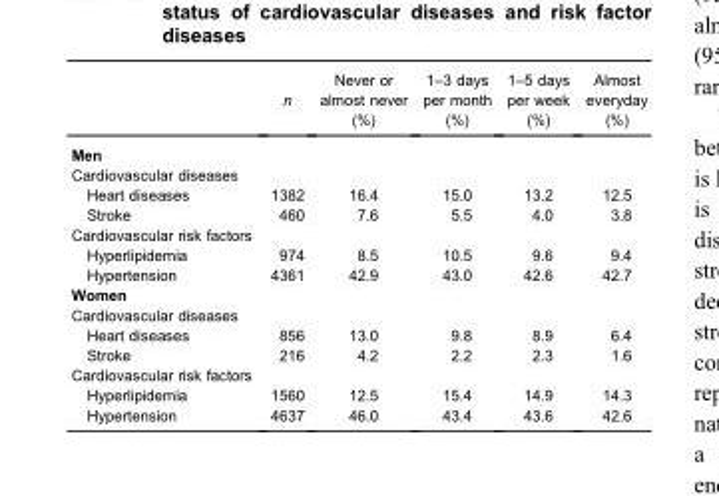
<table><thead><tr><td></td><td>n</td><td>Never or almost never (%)</td><td>1–3 days per month (%)</td><td>1–5 days per week (%)</td><td>Almost everyday (%)</td></tr></thead><tbody><tr><td colspan="6">Men</td></tr><tr><td colspan="6">Cardiovascular diseases</td></tr><tr><td>Heart diseases</td><td>1382</td><td>16.4</td><td>15.0</td><td>13.2</td><td>12.5</td></tr><tr><td>Stroke</td><td>460</td><td>7.6</td><td>5.5</td><td>4.0</td><td>3.8</td></tr><tr><td colspan="6">Cardiovascular risk factors</td></tr><tr><td>Hyperlipidemia</td><td>974</td><td>8.5</td><td>10.5</td><td>9.6</td><td>9.4</td></tr><tr><td>Hypertension</td><td>4361</td><td>42.9</td><td>43.0</td><td>42.6</td><td>42.7</td></tr><tr><td colspan="6">Women</td></tr><tr><td colspan="6">Cardiovascular diseases</td></tr><tr><td>Heart diseases</td><td>856</td><td>13.0</td><td>9.8</td><td>8.9</td><td>6.4</td></tr><tr><td>Stroke</td><td>216</td><td>4.2</td><td>2.2</td><td>2.3</td><td>1.6</td></tr><tr><td colspan="6">Cardiovascular risk factors</td></tr><tr><td>Hyperlipidemia</td><td>1560</td><td>12.5</td><td>15.4</td><td>14.9</td><td>14.3</td></tr><tr><td>Hypertension</td><td>4637</td><td>46.0</td><td>43.4</td><td>43.6</td><td>42.6</td></tr></tbody></table>